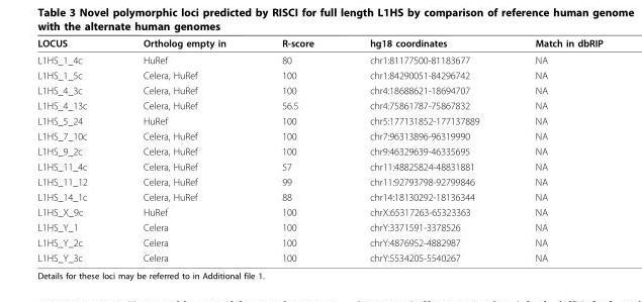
<table><thead><tr><td>LOCUS</td><td>Ortholog empty in</td><td>R-score</td><td>hg18 coordinates</td><td>Match in dbRIP</td></tr></thead><tbody><tr><td>L1HS_1_4c</td><td>HuRef</td><td>80</td><td>chr1:81177500-81183677</td><td>NA</td></tr><tr><td>L1HS_1_5c</td><td>Celera, HuRef</td><td>100</td><td>chr1:84290051-84296742</td><td>NA</td></tr><tr><td>L1HS_4_3c</td><td>Celera, HuRef</td><td>100</td><td>chr4:18688621-18694707</td><td>NA</td></tr><tr><td>L1HS_4_13c</td><td>Celera, HuRef</td><td>56.5</td><td>chr4:75861787-75867832</td><td>NA</td></tr><tr><td>L1HS_5_24</td><td>HuRef</td><td>100</td><td>chr5:177131852-177137889</td><td>NA</td></tr><tr><td>L1HS_7_10c</td><td>Celera, HuRef</td><td>100</td><td>chr7:96313896-96319990</td><td>NA</td></tr><tr><td>L1HS_9_2c</td><td>Celera, HuRef</td><td>100</td><td>chr9:46329639-46335695</td><td>NA</td></tr><tr><td>L1HS_11_4c</td><td>Celera, HuRef</td><td>57</td><td>chr11:48825824-48831881</td><td>NA</td></tr><tr><td>L1HS_11_12</td><td>Celera, HuRef</td><td>99</td><td>chr11:92793798-92799846</td><td>NA</td></tr><tr><td>L1HS_14_1c</td><td>Celera, HuRef</td><td>88</td><td>chr14:18130292-18136344</td><td>NA</td></tr><tr><td>L1HS_X_9c</td><td>HuRef</td><td>100</td><td>chrX:65317263-65323363</td><td>NA</td></tr><tr><td>L1HS_Y_1</td><td>Celera</td><td>100</td><td>chrY:3371591-3378526</td><td>NA</td></tr><tr><td>L1HS_Y_2c</td><td>Celera</td><td>100</td><td>chrY:4876952-4882987</td><td>NA</td></tr><tr><td>L1HS_Y_3c</td><td>Celera</td><td>100</td><td>chrY:5534205-5540267</td><td>NA</td></tr></tbody></table>